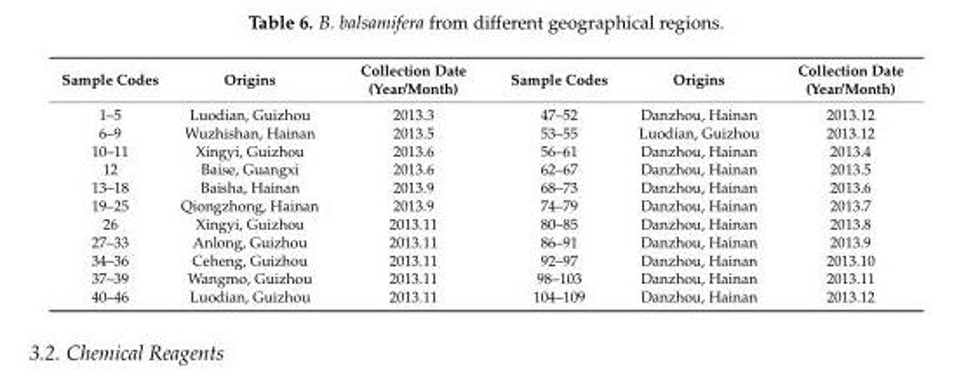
<table><thead><tr><td>Sample Codes</td><td>Origins</td><td>Collection Date (Year/Month)</td><td>Sample Codes</td><td>Origins</td><td>Collection Date (Year/Month)</td></tr></thead><tbody><tr><td>1–5</td><td>Luodian, Guizhou</td><td>2013.3</td><td>47–52</td><td>Danzhou, Hainan</td><td>2013.12</td></tr><tr><td>6–9</td><td>Wuzhishan, Hainan</td><td>2013.5</td><td>53–55</td><td>Luodian, Guizhou</td><td>2013.12</td></tr><tr><td>10–11</td><td>Xingyi, Guizhou</td><td>2013.6</td><td>56–61</td><td>Danzhou, Hainan</td><td>2013.4</td></tr><tr><td>12</td><td>Baise, Guangxi</td><td>2013.6</td><td>62–67</td><td>Danzhou, Hainan</td><td>2013.5</td></tr><tr><td>13–18</td><td>Baisha, Hainan</td><td>2013.9</td><td>68–73</td><td>Danzhou, Hainan</td><td>2013.6</td></tr><tr><td>19–25</td><td>Qiongzhong, Hainan</td><td>2013.9</td><td>74–79</td><td>Danzhou, Hainan</td><td>2013.7</td></tr><tr><td>26</td><td>Xingyi, Guizhou</td><td>2013.11</td><td>80–85</td><td>Danzhou, Hainan</td><td>2013.8</td></tr><tr><td>27–33</td><td>Anlong, Guizhou</td><td>2013.11</td><td>86–91</td><td>Danzhou, Hainan</td><td>2013.9</td></tr><tr><td>34–36</td><td>Ceheng, Guizhou</td><td>2013.11</td><td>92–97</td><td>Danzhou, Hainan</td><td>2013.10</td></tr><tr><td>37–39</td><td>Wangmo, Guizhou</td><td>2013.11</td><td>98–103</td><td>Danzhou, Hainan</td><td>2013.11</td></tr><tr><td>40–46</td><td>Luodian, Guizhou</td><td>2013.11</td><td>104–109</td><td>Danzhou, Hainan</td><td>2013.12</td></tr></tbody></table>